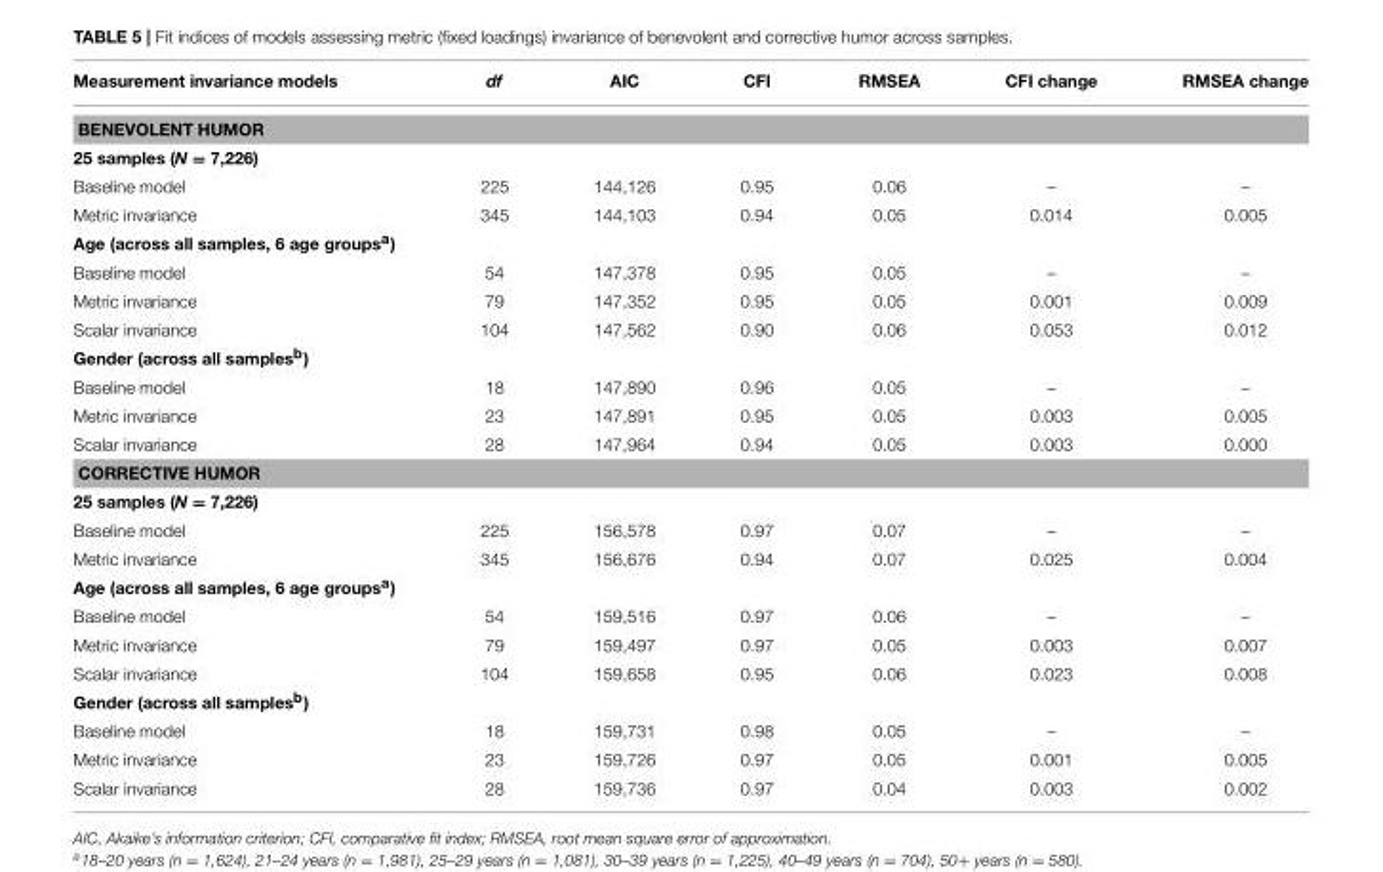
<table><thead><tr><td>Measurement invariance models</td><td>df</td><td>AIC</td><td>CFI</td><td>RMSEA</td><td>CFI change</td><td>RMSEA change</td></tr></thead><tbody><tr><td colspan="7">BENEVOLENT HUMOR</td></tr><tr><td colspan="7">25 samples (N = 7,226)</td></tr><tr><td>Baseline model</td><td>225</td><td>144,126</td><td>0.95</td><td>0.06</td><td>–</td><td>–</td></tr><tr><td>Metric invariance</td><td>345</td><td>144,103</td><td>0.94</td><td>0.05</td><td>0.014</td><td>0.005</td></tr><tr><td colspan="7">Age (across all samples, 6 age groups<sup>a</sup>)</td></tr><tr><td>Baseline model</td><td>54</td><td>147,378</td><td>0.95</td><td>0.05</td><td>–</td><td>–</td></tr><tr><td>Metric invariance</td><td>79</td><td>147,352</td><td>0.95</td><td>0.05</td><td>0.001</td><td>0.009</td></tr><tr><td>Scalar invariance</td><td>104</td><td>147,562</td><td>0.90</td><td>0.06</td><td>0.053</td><td>0.012</td></tr><tr><td colspan="7">Gender (across all samples<sup>b</sup>)</td></tr><tr><td>Baseline model</td><td>18</td><td>147,890</td><td>0.96</td><td>0.05</td><td>–</td><td>–</td></tr><tr><td>Metric invariance</td><td>23</td><td>147,891</td><td>0.95</td><td>0.05</td><td>0.003</td><td>0.005</td></tr><tr><td>Scalar invariance</td><td>28</td><td>147,964</td><td>0.94</td><td>0.05</td><td>0.003</td><td>0.000</td></tr><tr><td colspan="7">CORRECTIVE HUMOR</td></tr><tr><td colspan="7">25 samples (N = 7,226)</td></tr><tr><td>Baseline model</td><td>225</td><td>156,578</td><td>0.97</td><td>0.07</td><td>–</td><td>–</td></tr><tr><td>Metric invariance</td><td>345</td><td>156,676</td><td>0.94</td><td>0.07</td><td>0.025</td><td>0.004</td></tr><tr><td colspan="7">Age (across all samples, 6 age groups<sup>a</sup>)</td></tr><tr><td>Baseline model</td><td>54</td><td>159,516</td><td>0.97</td><td>0.06</td><td>–</td><td>–</td></tr><tr><td>Metric invariance</td><td>79</td><td>159,497</td><td>0.97</td><td>0.05</td><td>0.003</td><td>0.007</td></tr><tr><td>Scalar invariance</td><td>104</td><td>159,658</td><td>0.95</td><td>0.06</td><td>0.023</td><td>0.008</td></tr><tr><td colspan="7">Gender (across all samples<sup>b</sup>)</td></tr><tr><td>Baseline model</td><td>18</td><td>159,731</td><td>0.98</td><td>0.05</td><td>–</td><td>–</td></tr><tr><td>Metric invariance</td><td>23</td><td>159,726</td><td>0.97</td><td>0.05</td><td>0.001</td><td>0.005</td></tr><tr><td>Scalar invariance</td><td>28</td><td>159,736</td><td>0.97</td><td>0.04</td><td>0.003</td><td>0.002</td></tr></tbody></table>